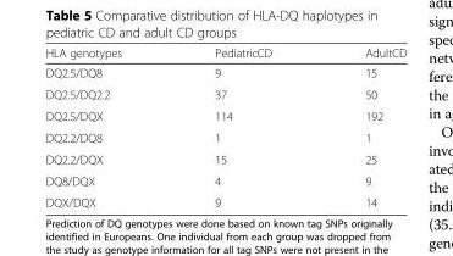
<table><thead><tr><td>HLA genotypes</td><td>PediatricCD</td><td>AdultCD</td></tr></thead><tbody><tr><td>DQ2.5/DQ8</td><td>9</td><td>15</td></tr><tr><td>DQ2.5/DQ2.2</td><td>37</td><td>50</td></tr><tr><td>DQ2.5/DQX</td><td>114</td><td>192</td></tr><tr><td>DQ2.2/DQ8</td><td>1</td><td>1</td></tr><tr><td>DQ2.2/DQX</td><td>15</td><td>25</td></tr><tr><td>DQ8/DQX</td><td>4</td><td>9</td></tr><tr><td>DQX/DQX</td><td>9</td><td>14</td></tr></tbody></table>